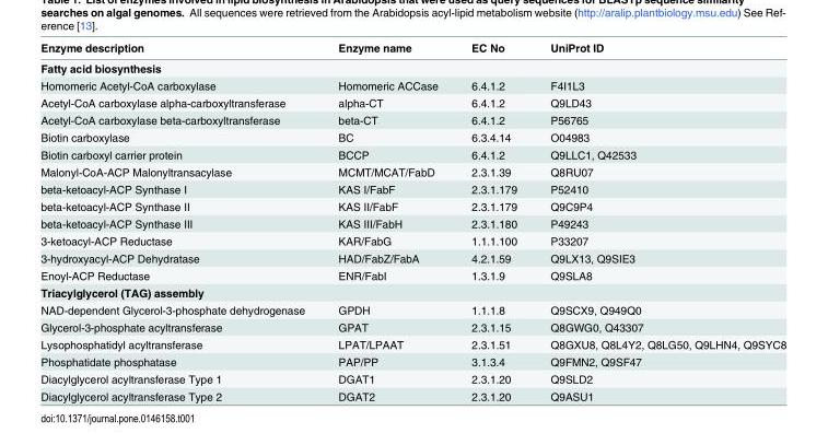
<table><thead><tr><td>Enzyme description</td><td>Enzyme name</td><td>EC No</td><td>UniProt ID</td></tr></thead><tbody><tr><td colspan="4">Fatty acid biosynthesis</td></tr><tr><td>Homomeric Acetyl-CoA carboxylase</td><td>Homomeric ACCase</td><td>6.4.1.2</td><td>F4I1L3</td></tr><tr><td>Acetyl-CoA carboxylase alpha-carboxyltransferase</td><td>alpha-CT</td><td>6.4.1.2</td><td>Q9LD43</td></tr><tr><td>Acetyl-CoA carboxylase beta-carboxyltransferase</td><td>beta-CT</td><td>6.4.1.2</td><td>P56765</td></tr><tr><td>Biotin carboxylase</td><td>BC</td><td>6.3.4.14</td><td>O04983</td></tr><tr><td>Biotin carboxyl carrier protein</td><td>BCCP</td><td>6.4.1.2</td><td>Q9LLC1, Q42533</td></tr><tr><td>Malonyl-CoA-ACP Malonyltransacylase</td><td>MCMT/MCAT/FabD</td><td>2.3.1.39</td><td>Q8RU07</td></tr><tr><td>beta-ketoacyl-ACP Synthase I</td><td>KAS I/FabF</td><td>2.3.1.179</td><td>P52410</td></tr><tr><td>beta-ketoacyl-ACP Synthase II</td><td>KAS II/FabF</td><td>2.3.1.179</td><td>Q9C9P4</td></tr><tr><td>beta-ketoacyl-ACP Synthase III</td><td>KAS III/FabH</td><td>2.3.1.180</td><td>P49243</td></tr><tr><td>3-ketoacyl-ACP Reductase</td><td>KAR/FabG</td><td>1.1.1.100</td><td>P33207</td></tr><tr><td>3-hydroxyacyl-ACP Dehydratase</td><td>HAD/FabZ/FabA</td><td>4.2.1.59</td><td>Q9LX13, Q9SIE3</td></tr><tr><td>Enoyl-ACP Reductase</td><td>ENR/FabI</td><td>1.3.1.9</td><td>Q9SLA8</td></tr><tr><td colspan="4">Triacylglycerol (TAG) assembly</td></tr><tr><td>NAD-dependent Glycerol-3-phosphate dehydrogenase</td><td>GPDH</td><td>1.1.1.8</td><td>Q9SCX9, Q949Q0</td></tr><tr><td>Glycerol-3-phosphate acyltransferase</td><td>GPAT</td><td>2.3.1.15</td><td>Q8GWG0, Q43307</td></tr><tr><td>Lysophosphatidyl acyltransferase</td><td>LPAT/LPAAT</td><td>2.3.1.51</td><td>Q8GXU8, Q8L4Y2, Q8LG50, Q9LHN4, Q9SYC8</td></tr><tr><td>Phosphatidate phosphatase</td><td>PAP/PP</td><td>3.1.3.4</td><td>Q9FMN2, Q9SF47</td></tr><tr><td>Diacylglycerol acyltransferase Type 1</td><td>DGAT1</td><td>2.3.1.20</td><td>Q9SLD2</td></tr><tr><td>Diacylglycerol acyltransferase Type 2</td><td>DGAT2</td><td>2.3.1.20</td><td>Q9ASU1</td></tr></tbody></table>